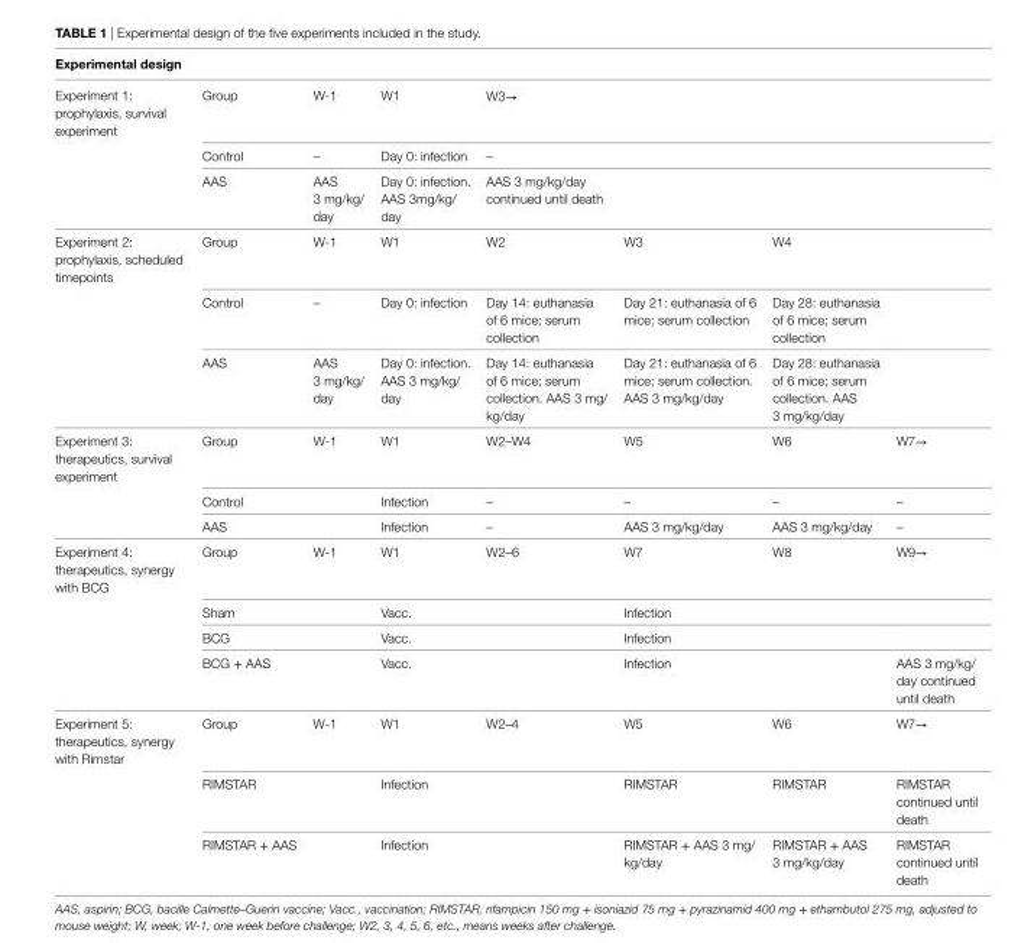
<table><thead><tr><td colspan="8">experimental design</td></tr><tr><td>Experiment 1: prophylaxis, survival experiment</td><td>Group</td><td>W-1</td><td>W1</td><td>W3→</td><td></td><td></td><td></td></tr></thead><tbody><tr><td></td><td>Control</td><td>–</td><td>Day 0: infection</td><td>–</td><td></td><td></td><td></td></tr><tr><td></td><td>AAS</td><td>AAS 3 mg/kg/ day</td><td>Day 0: infection. AAS 3mg/kg/ day</td><td>AAS 3 mg/kg/day continued until death</td><td></td><td></td><td></td></tr><tr><td rowspan="3">Experiment 2: prophylaxis, scheduled timepoints</td><td>Group</td><td>W-1</td><td>W1</td><td>W2</td><td>W3</td><td>W4</td><td></td></tr><tr><td>Control</td><td>–</td><td>Day 0: infection</td><td>Day 14: euthanasia of 6 mice; serum collection</td><td>Day 21: euthanasia of 6 mice; serum collection</td><td>Day 28: euthanasia of 6 mice; serum collection</td><td></td></tr><tr><td>AAS</td><td>AAS 3 mg/kg/ day</td><td>Day 0: infection. AAS 3 mg/kg/ day</td><td>Day 14: euthanasia of 6 mice; serum collection. AAS 3 mg/ kg/day</td><td>Day 21: euthanasia of 6 mice; serum collection. AAS 3 mg/kg/day</td><td>Day 28: euthanasia of 6 mice; serum collection. AAS 3 mg/kg/day</td><td></td></tr><tr><td rowspan="3">Experiment 3: therapeutics, survival experiment</td><td>Group</td><td>W-1</td><td>W1</td><td>W2–W4</td><td>W5</td><td>W6</td><td>W7→</td></tr><tr><td>Control</td><td></td><td>Infection</td><td>–</td><td>–</td><td>–</td><td>–</td></tr><tr><td>AAS</td><td></td><td>Infection</td><td>–</td><td>AAS 3 mg/kg/day</td><td>AAS 3 mg/kg/day</td><td>–</td></tr><tr><td rowspan="4">Experiment 4: therapeutics, synergy with BCG</td><td>Group</td><td>W-1</td><td>W1</td><td>W2–6</td><td>W7</td><td>W8</td><td>W9→</td></tr><tr><td>Sham</td><td></td><td>Vacc.</td><td></td><td>Infection</td><td></td><td></td></tr><tr><td>BCG</td><td></td><td>Vacc.</td><td></td><td>Infection</td><td></td><td></td></tr><tr><td>BCG + AAS</td><td></td><td>Vacc.</td><td></td><td>Infection</td><td></td><td>AAS 3 mg/kg/ day continued until death</td></tr><tr><td rowspan="3">Experiment 5: therapeutics, synergy with Rimstar</td><td>Group</td><td>W-1</td><td>W1</td><td>W2–4</td><td>W5</td><td>W6</td><td>W7→</td></tr><tr><td>RIMSTAR</td><td></td><td>Infection</td><td></td><td>RIMSTAR</td><td>RIMSTAR</td><td>RIMSTAR continued until death</td></tr><tr><td>RIMSTAR + AAS</td><td></td><td>Infection</td><td></td><td>RIMSTAR + AAS 3 mg/ kg/day</td><td>RIMSTAR + AAS 3 mg/kg/day</td><td>RIMSTAR continued until death</td></tr></tbody></table>